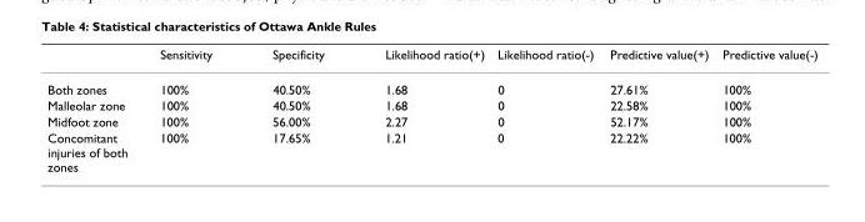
<table><thead><tr><td></td><td>Sensitivity</td><td>Specificity</td><td>Likelihood ratio(+)</td><td>Likelihood ratio(-)</td><td>Predictive value(+)</td><td>Predictive value(-)</td></tr></thead><tbody><tr><td>Both zones</td><td>100%</td><td>40.50%</td><td>1.68</td><td>0</td><td>27.61%</td><td>100%</td></tr><tr><td>Malleolar zone</td><td>100%</td><td>40.50%</td><td>1.68</td><td>0</td><td>22.58%</td><td>100%</td></tr><tr><td>Midfoot zone</td><td>100%</td><td>56.00%</td><td>2.27</td><td>0</td><td>52.17%</td><td>100%</td></tr><tr><td>Concomitant injuries of both zones</td><td>100%</td><td>17.65%</td><td>1.21</td><td>0</td><td>22.22%</td><td>100%</td></tr></tbody></table>